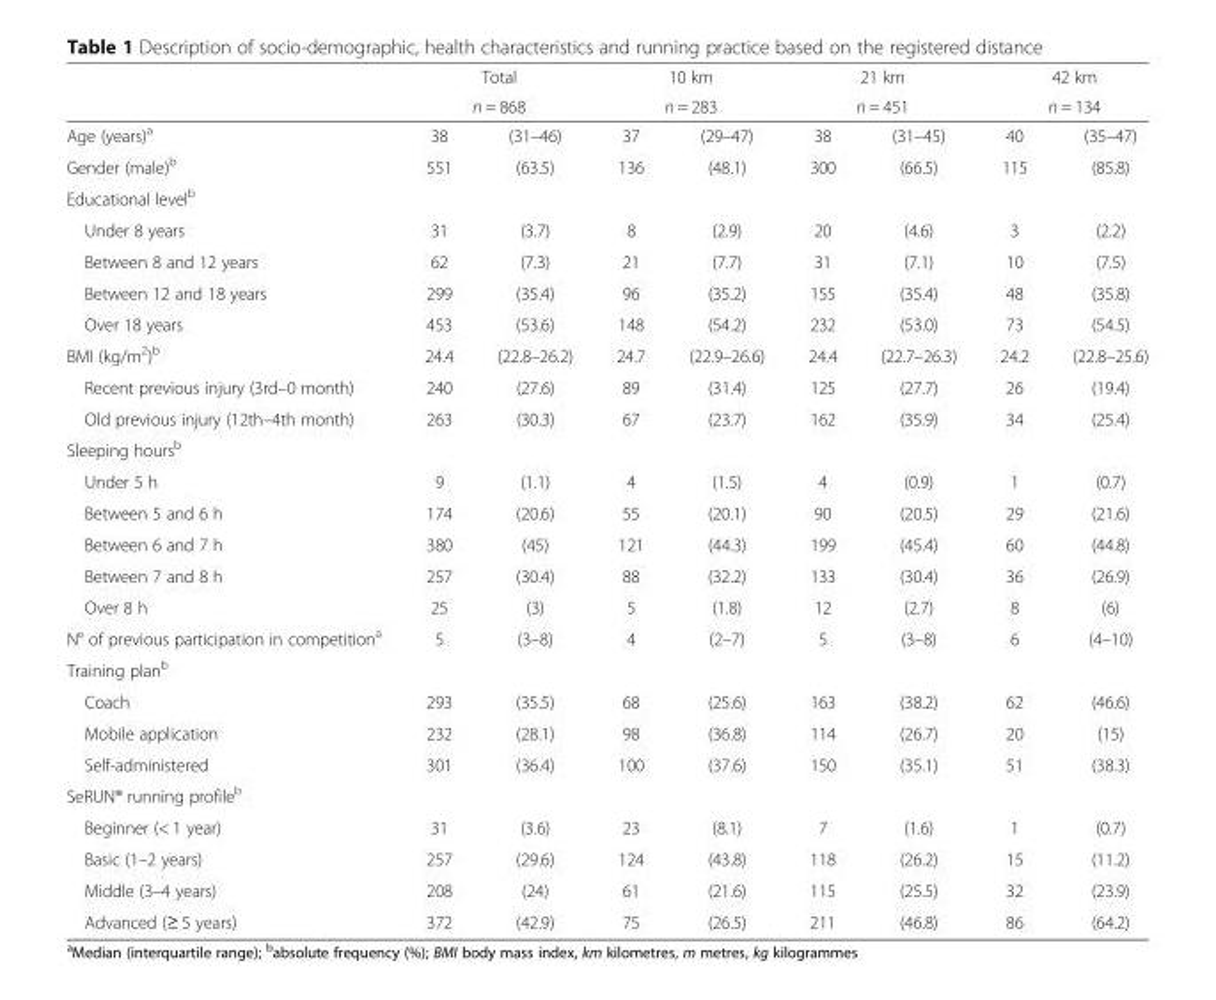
<table><thead><tr><td rowspan="3">Age (years)<sup>a</sup></td><td rowspan="2" colspan="2">Total n = 868</td><td rowspan="2" colspan="2">10 km n = 283</td><td rowspan="2" colspan="2">21 km n = 451</td><td rowspan="2" colspan="2">42 km n = 134</td></tr><tr></tr><tr><td>38</td><td>(31–46)</td><td>37</td><td>(29–47)</td><td>38</td><td>(31–45)</td><td>40</td><td>(35–47)</td></tr></thead><tbody><tr><td>Gender (male)<sup>b</sup></td><td>551</td><td>(63.5)</td><td>136</td><td>(48.1)</td><td>300</td><td>(66.5)</td><td>115</td><td>(85.8)</td></tr><tr><td colspan="9">Educational level<sup>b</sup></td></tr><tr><td>Under 8 years</td><td>31</td><td>(3.7)</td><td>8</td><td>(2.9)</td><td>20</td><td>(4.6)</td><td>3</td><td>(2.2)</td></tr><tr><td>Between 8 and 12 years</td><td>62</td><td>(7.3)</td><td>21</td><td>(7.7)</td><td>31</td><td>(7.1)</td><td>10</td><td>(7.5)</td></tr><tr><td>Between 12 and 18 years</td><td>299</td><td>(35.4)</td><td>96</td><td>(35.2)</td><td>155</td><td>(35.4)</td><td>48</td><td>(35.8)</td></tr><tr><td>Over 18 years</td><td>453</td><td>(53.6)</td><td>148</td><td>(54.2)</td><td>232</td><td>(53.0)</td><td>73</td><td>(54.5)</td></tr><tr><td>BMI (kg/m<sup>2</sup>)<sup>b</sup></td><td>24.4</td><td>(22.8–26.2)</td><td>24.7</td><td>(22.9–26.6)</td><td>24.4</td><td>(22.7–26.3)</td><td>24.2</td><td>(22.8–25.6)</td></tr><tr><td>Recent previous injury (3rd–0 month)</td><td>240</td><td>(27.6)</td><td>89</td><td>(31.4)</td><td>125</td><td>(27.7)</td><td>26</td><td>(19.4)</td></tr><tr><td>Old previous injury (12th–4th month)</td><td>263</td><td>(30.3)</td><td>67</td><td>(23.7)</td><td>162</td><td>(35.9)</td><td>34</td><td>(25.4)</td></tr><tr><td colspan="9">Sleeping hours<sup>b</sup></td></tr><tr><td>Under 5 h</td><td>9</td><td>(1.1)</td><td>4</td><td>(1.5)</td><td>4</td><td>(0.9)</td><td>1</td><td>(0.7)</td></tr><tr><td>Between 5 and 6 h</td><td>174</td><td>(20.6)</td><td>55</td><td>(20.1)</td><td>90</td><td>(20.5)</td><td>29</td><td>(21.6)</td></tr><tr><td>Between 6 and 7 h</td><td>380</td><td>(45)</td><td>121</td><td>(44.3)</td><td>199</td><td>(45.4)</td><td>60</td><td>(44.8)</td></tr><tr><td>Between 7 and 8 h</td><td>257</td><td>(30.4)</td><td>88</td><td>(32.2)</td><td>133</td><td>(30.4)</td><td>36</td><td>(26.9)</td></tr><tr><td>Over 8 h</td><td>25</td><td>(3)</td><td>5</td><td>(1.8)</td><td>12</td><td>(2.7)</td><td>8</td><td>(6)</td></tr><tr><td>N° of previous participation in competition<sup>a</sup></td><td>5</td><td>(3–8)</td><td>4</td><td>(2–7)</td><td>5</td><td>(3–8)</td><td>6</td><td>(4–10)</td></tr><tr><td colspan="9">Training plan<sup>b</sup></td></tr><tr><td>Coach</td><td>293</td><td>(35.5)</td><td>68</td><td>(25.6)</td><td>163</td><td>(38.2)</td><td>62</td><td>(46.6)</td></tr><tr><td>Mobile application</td><td>232</td><td>(28.1)</td><td>98</td><td>(36.8)</td><td>114</td><td>(26.7)</td><td>20</td><td>(15)</td></tr><tr><td>Self-administered</td><td>301</td><td>(36.4)</td><td>100</td><td>(37.6)</td><td>150</td><td>(35.1)</td><td>51</td><td>(38.3)</td></tr><tr><td colspan="9">SeRUN® running profile<sup>b</sup></td></tr><tr><td>Beginner (&lt; 1 year)</td><td>31</td><td>(3.6)</td><td>23</td><td>(8.1)</td><td>7</td><td>(1.6)</td><td>1</td><td>(0.7)</td></tr><tr><td>Basic (1–2 years)</td><td>257</td><td>(29.6)</td><td>124</td><td>(43.8)</td><td>118</td><td>(26.2)</td><td>15</td><td>(11.2)</td></tr><tr><td>Middle (3–4 years)</td><td>208</td><td>(24)</td><td>61</td><td>(21.6)</td><td>115</td><td>(25.5)</td><td>32</td><td>(23.9)</td></tr><tr><td>Advanced (≥ 5 years)</td><td>372</td><td>(42.9)</td><td>75</td><td>(26.5)</td><td>211</td><td>(46.8)</td><td>86</td><td>(64.2)</td></tr></tbody></table>